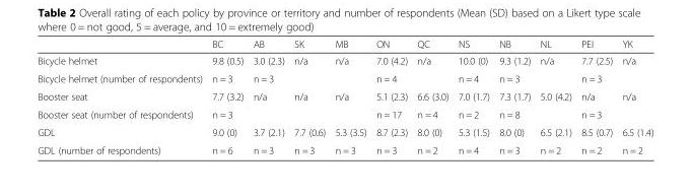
<table><thead><tr><td></td><td>BC</td><td>AB</td><td>SK</td><td>MB</td><td>ON</td><td>QC</td><td>NS</td><td>NB</td><td>NL</td><td>PEI</td><td>YK</td></tr></thead><tbody><tr><td>Bicycle helmet</td><td>9.8 (0.5)</td><td>3.0 (2.3)</td><td>n/a</td><td>n/a</td><td>7.0 (4.2)</td><td>n/a</td><td>10.0 (0)</td><td>9.3 (1.2)</td><td>n/a</td><td>7.7 (2.5)</td><td>n/a</td></tr><tr><td>Bicycle helmet (number of respondents)</td><td>n = 3</td><td>n = 3</td><td></td><td></td><td>n = 4</td><td></td><td>n = 4</td><td>n = 3</td><td></td><td>n = 3</td><td></td></tr><tr><td>Booster seat</td><td>7.7 (3.2)</td><td>n/a</td><td>n/a</td><td>n/a</td><td>5.1 (2.3)</td><td>6.6 (3.0)</td><td>7.0 (1.7)</td><td>7.3 (1.7)</td><td>5.0 (4.2)</td><td>n/a</td><td>n/a</td></tr><tr><td>Booster seat (number of respondents)</td><td>n = 3</td><td></td><td></td><td></td><td>n = 17</td><td>n = 4</td><td>n = 2</td><td>n = 8</td><td></td><td>n = 3</td><td></td></tr><tr><td>GDL</td><td>9.0 (0)</td><td>3.7 (2.1)</td><td>7.7 (0.6)</td><td>5.3 (3.5)</td><td>8.7 (2.3)</td><td>8.0 (0)</td><td>5.3 (1.5)</td><td>8.0 (0)</td><td>6.5 (2.1)</td><td>8.5 (0.7)</td><td>6.5 (1.4)</td></tr><tr><td>GDL (number of respondents)</td><td>n = 6</td><td>n = 3</td><td>n = 3</td><td>n = 3</td><td>n = 3</td><td>n = 2</td><td>n = 4</td><td>n = 3</td><td>n = 2</td><td>n = 2</td><td>n = 2</td></tr></tbody></table>